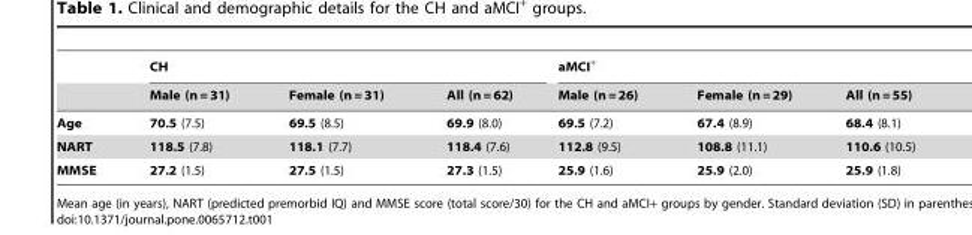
<table><thead><tr><td rowspan="2"></td><td colspan="3">CH</td><td colspan="3">aMCI<sup>+</sup></td></tr><tr><td>Male (n = 31)</td><td>Female (n = 31)</td><td>All (n = 62)</td><td>Male (n = 26)</td><td>Female (n = 29)</td><td>All (n = 55)</td></tr></thead><tbody><tr><td>Age</td><td>70.5 (7.5)</td><td>69.5 (8.5)</td><td>69.9 (8.0)</td><td>69.5 (7.2)</td><td>67.4 (8.9)</td><td>68.4 (8.1)</td></tr><tr><td>NART</td><td>118.5 (7.8)</td><td>118.1 (7.7)</td><td>118.4 (7.6)</td><td>112.8 (9.5)</td><td>108.8 (11.1)</td><td>110.6 (10.5)</td></tr><tr><td>MMSE</td><td>27.2 (1.5)</td><td>27.5 (1.5)</td><td>27.3 (1.5)</td><td>25.9 (1.6)</td><td>25.9 (2.0)</td><td>25.9 (1.8)</td></tr></tbody></table>